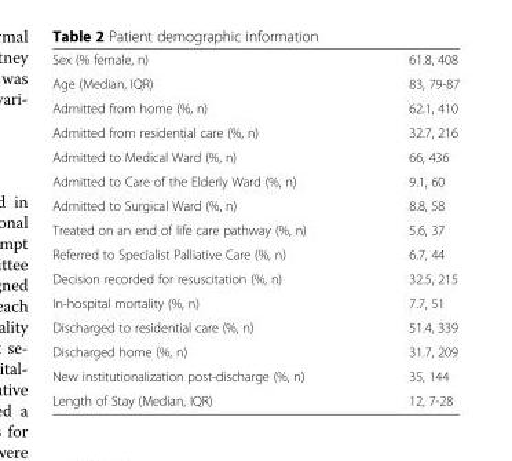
<table><tbody><tr><td>Sex (% female, n)</td><td>61.8, 408</td></tr><tr><td>Age (Median, IQR)</td><td>83, 79-87</td></tr><tr><td>Admitted from home (%, n)</td><td>62.1, 410</td></tr><tr><td>Admitted from residential care (%, n)</td><td>32.7, 216</td></tr><tr><td>Admitted to Medical Ward (%, n)</td><td>66, 436</td></tr><tr><td>Admitted to Care of the Elderly Ward (%, n)</td><td>9.1, 60</td></tr><tr><td>Admitted to Surgical Ward (%, n)</td><td>8.8, 58</td></tr><tr><td>Treated on an end of life care pathway (%, n)</td><td>5.6, 37</td></tr><tr><td>Referred to Specialist Palliative Care (%, n)</td><td>6.7, 44</td></tr><tr><td>Decision recorded for resuscitation (%, n)</td><td>32.5, 215</td></tr><tr><td>In-hospital mortality (%, n)</td><td>7.7, 51</td></tr><tr><td>Discharged to residential care (%, n)</td><td>51.4, 339</td></tr><tr><td>Discharged home (%, n)</td><td>31.7, 209</td></tr><tr><td>New institutionalization post-discharge (%, n)</td><td>35, 144</td></tr><tr><td>Length of Stay (Median, IQR)</td><td>12, 7-28</td></tr></tbody></table>